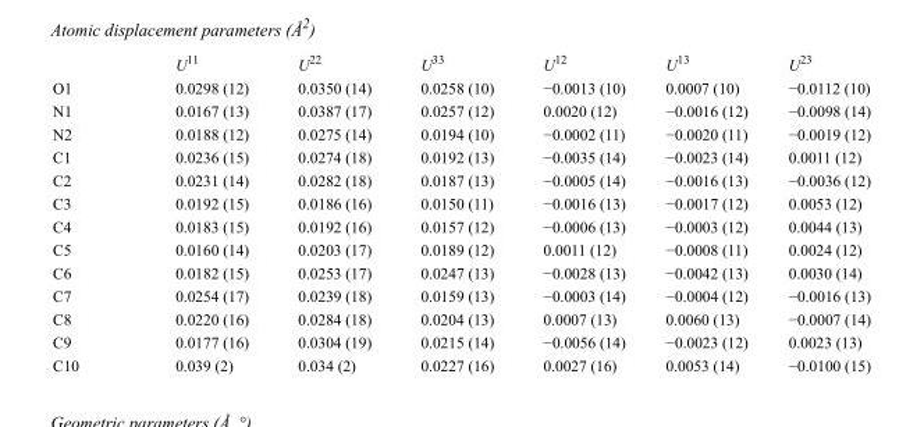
<table><thead><tr><td></td><td>U<sup>11</sup></td><td>U<sup>22</sup></td><td>U<sup>33</sup></td><td>U<sup>12</sup></td><td>U<sup>13</sup></td><td>U<sup>23</sup></td></tr></thead><tbody><tr><td>O1</td><td>0.0298 (12)</td><td>0.0350 (14)</td><td>0.0258 (10)</td><td>−0.0013 (10)</td><td>0.0007 (10)</td><td>−0.0112 (10)</td></tr><tr><td>N1</td><td>0.0167 (13)</td><td>0.0387 (17)</td><td>0.0257 (12)</td><td>0.0020 (12)</td><td>−0.0016 (12)</td><td>−0.0098 (14)</td></tr><tr><td>N2</td><td>0.0188 (12)</td><td>0.0275 (14)</td><td>0.0194 (10)</td><td>−0.0002 (11)</td><td>−0.0020 (11)</td><td>−0.0019 (12)</td></tr><tr><td>C1</td><td>0.0236 (15)</td><td>0.0274 (18)</td><td>0.0192 (13)</td><td>−0.0035 (14)</td><td>−0.0023 (14)</td><td>0.0011 (12)</td></tr><tr><td>C2</td><td>0.0231 (14)</td><td>0.0282 (18)</td><td>0.0187 (13)</td><td>−0.0005 (14)</td><td>−0.0016 (13)</td><td>−0.0036 (12)</td></tr><tr><td>C3</td><td>0.0192 (15)</td><td>0.0186 (16)</td><td>0.0150 (11)</td><td>−0.0016 (13)</td><td>−0.0017 (12)</td><td>0.0053 (12)</td></tr><tr><td>C4</td><td>0.0183 (15)</td><td>0.0192 (16)</td><td>0.0157 (12)</td><td>−0.0006 (13)</td><td>−0.0003 (12)</td><td>0.0044 (13)</td></tr><tr><td>C5</td><td>0.0160 (14)</td><td>0.0203 (17)</td><td>0.0189 (12)</td><td>0.0011 (12)</td><td>−0.0008 (11)</td><td>0.0024 (12)</td></tr><tr><td>C6</td><td>0.0182 (15)</td><td>0.0253 (17)</td><td>0.0247 (13)</td><td>−0.0028 (13)</td><td>−0.0042 (13)</td><td>0.0030 (14)</td></tr><tr><td>C7</td><td>0.0254 (17)</td><td>0.0239 (18)</td><td>0.0159 (13)</td><td>−0.0003 (14)</td><td>−0.0004 (12)</td><td>−0.0016 (13)</td></tr><tr><td>C8</td><td>0.0220 (16)</td><td>0.0284 (18)</td><td>0.0204 (13)</td><td>0.0007 (13)</td><td>0.0060 (13)</td><td>−0.0007 (14)</td></tr><tr><td>C9</td><td>0.0177 (16)</td><td>0.0304 (19)</td><td>0.0215 (14)</td><td>−0.0056 (14)</td><td>−0.0023 (12)</td><td>0.0023 (13)</td></tr><tr><td>C10</td><td>0.039 (2)</td><td>0.034 (2)</td><td>0.0227 (16)</td><td>0.0027 (16)</td><td>0.0053 (14)</td><td>−0.0100 (15)</td></tr></tbody></table>